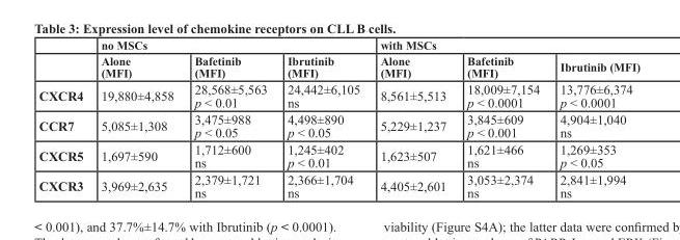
<table><thead><tr><td rowspan="2"></td><td colspan="3">no MSCs</td><td colspan="3">with MSCs</td></tr><tr><td>Alone (MFI)</td><td>Bafetinib (MFI)</td><td>Ibrutinib (MFI)</td><td>Alone (MFI)</td><td>Bafetinib (MFI)</td><td>Ibrutinib (MFI)</td></tr></thead><tbody><tr><td>CXCR4</td><td>19,880±4,858</td><td>28,568±5,563 p &lt; 0.01</td><td>24,442±6,105 ns</td><td>8,561±5,513</td><td>18,009±7,154 p &lt; 0.0001</td><td>13,776±6,374 p &lt; 0.0001</td></tr><tr><td>CCR7</td><td>5,085±1,308</td><td>3,475±988 p &lt; 0.05</td><td>4,498±890 p &lt; 0.05</td><td>5,229±1,237</td><td>3,845±609 p &lt; 0.001</td><td>4,904±1,040 ns</td></tr><tr><td>CXCR5</td><td>1,697±590</td><td>1,712±600 ns</td><td>1,245±402 p &lt; 0.01</td><td>1,623±507</td><td>1,621±466 ns</td><td>1,269±353 p &lt; 0.05</td></tr><tr><td>CXCR3</td><td>3,969±2,635</td><td>2,379±1,721 ns</td><td>2,366±1,704 ns</td><td>4,405±2,601</td><td>3,053±2,374 ns</td><td>2,841±1,994 ns</td></tr></tbody></table>